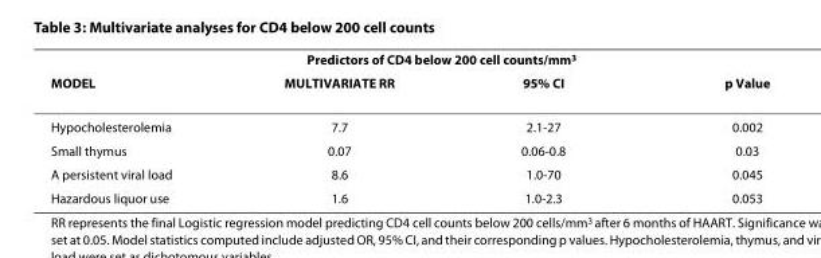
<table><thead><tr><td colspan="4">Predictors of CD4 below 200 cell counts/mm<sup>3</sup></td></tr><tr><td>MODEL</td><td>MULTIVARIATE RR</td><td>95% CI</td><td>p Value</td></tr></thead><tbody><tr><td>Hypocholesterolemia</td><td>7.7</td><td>2.1-27</td><td>0.002</td></tr><tr><td>Small thymus</td><td>0.07</td><td>0.06-0.8</td><td>0.03</td></tr><tr><td>A persistent viral load</td><td>8.6</td><td>1.0-70</td><td>0.045</td></tr><tr><td>Hazardous liquor use</td><td>1.6</td><td>1.0-2.3</td><td>0.053</td></tr></tbody></table>